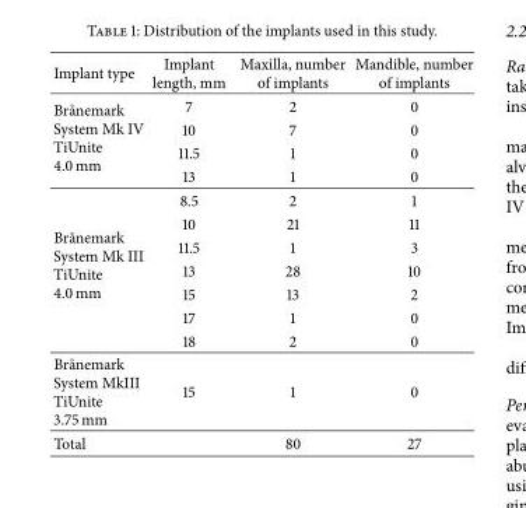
<table><thead><tr><td>Implant type</td><td>Implant length, mm</td><td>Maxilla, number of implants</td><td>Mandible, number of implants</td></tr></thead><tbody><tr><td rowspan="4">Br˚anemark System Mk IV TiUnite 4.0 mm</td><td>7</td><td>2</td><td>0</td></tr><tr><td>10</td><td>7</td><td>0</td></tr><tr><td>11.5</td><td>1</td><td>0</td></tr><tr><td>13</td><td>1</td><td>0</td></tr><tr><td rowspan="7">Br˚anemark System Mk III TiUnite 4.0 mm</td><td>8.5</td><td>2</td><td>1</td></tr><tr><td>10</td><td>21</td><td>11</td></tr><tr><td>11.5</td><td>1</td><td>3</td></tr><tr><td>13</td><td>28</td><td>10</td></tr><tr><td>15</td><td>13</td><td>2</td></tr><tr><td>17</td><td>1</td><td>0</td></tr><tr><td>18</td><td>2</td><td>0</td></tr><tr><td>Br˚anemark System MkIII TiUnite 3.75 mm</td><td>15</td><td>1</td><td>0</td></tr><tr><td>Total</td><td></td><td>80</td><td>27</td></tr></tbody></table>